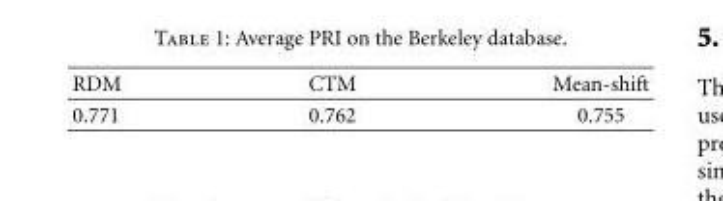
<table><thead><tr><td>RDM</td><td>CTM</td><td>Mean-shift</td></tr></thead><tbody><tr><td>0.771</td><td>0.762</td><td>0.755</td></tr></tbody></table>